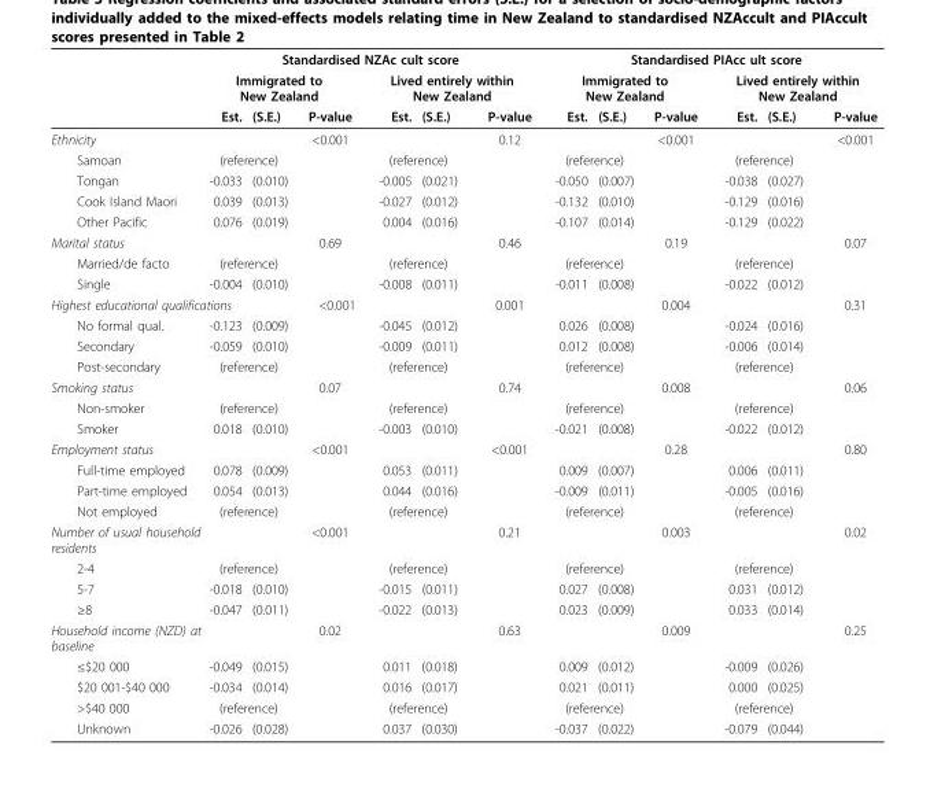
<table><thead><tr><td rowspan="3"></td><td colspan="6">Standardised NZAc cult score</td><td colspan="6">Standardised PIAcc ult score</td></tr><tr><td colspan="3">Immigrated to New Zealand</td><td colspan="3">Lived entirely within New Zealand</td><td colspan="3">Immigrated to New Zealand</td><td colspan="3">Lived entirely within New Zealand</td></tr><tr><td>Est.</td><td>(S.E.)</td><td>P-value</td><td>Est.</td><td>(S.E.)</td><td>P-value</td><td>Est.</td><td>(S.E.)</td><td>P-value</td><td>Est.</td><td>(S.E.)</td><td>P-value</td></tr></thead><tbody><tr><td>Ethnicity</td><td></td><td></td><td>&lt;0.001</td><td></td><td></td><td>0.12</td><td></td><td></td><td>&lt;0.001</td><td></td><td></td><td>&lt;0.001</td></tr><tr><td>Samoan</td><td colspan="2">(reference)</td><td></td><td colspan="2">(reference)</td><td></td><td colspan="2">(reference)</td><td></td><td colspan="2">(reference)</td><td></td></tr><tr><td>Tongan</td><td>-0.033</td><td>(0.010)</td><td></td><td>-0.005</td><td>(0.021)</td><td></td><td>-0.050</td><td>(0.007)</td><td></td><td>-0.038</td><td>(0.027)</td><td></td></tr><tr><td>Cook Island Maori</td><td>0.039</td><td>(0.013)</td><td></td><td>-0.027</td><td>(0.012)</td><td></td><td>-0.132</td><td>(0.010)</td><td></td><td>-0.129</td><td>(0.016)</td><td></td></tr><tr><td>Other Pacific</td><td>0.076</td><td>(0.019)</td><td></td><td>0.004</td><td>(0.016)</td><td></td><td>-0.107</td><td>(0.014)</td><td></td><td>-0.129</td><td>(0.022)</td><td></td></tr><tr><td>Marital status</td><td></td><td></td><td>0.69</td><td></td><td></td><td>0.46</td><td></td><td></td><td>0.19</td><td></td><td></td><td>0.07</td></tr><tr><td>Married/de facto</td><td colspan="2">(reference)</td><td></td><td colspan="2">(reference)</td><td></td><td colspan="2">(reference)</td><td></td><td colspan="2">(reference)</td><td></td></tr><tr><td>Single</td><td>-0.004</td><td>(0.010)</td><td></td><td>-0.008</td><td>(0.011)</td><td></td><td>-0.011</td><td>(0.008)</td><td></td><td>-0.022</td><td>(0.012)</td><td></td></tr><tr><td colspan="2">Highest educational qualifications</td><td></td><td>&lt;0.001</td><td></td><td></td><td>0.001</td><td></td><td></td><td>0.004</td><td></td><td></td><td>0.31</td></tr><tr><td>No formal qual.</td><td>-0.123</td><td>(0.009)</td><td></td><td>-0.045</td><td>(0.012)</td><td></td><td>0.026</td><td>(0.008)</td><td></td><td>-0.024</td><td>(0.016)</td><td></td></tr><tr><td>Secondary</td><td>-0.059</td><td>(0.010)</td><td></td><td>-0.009</td><td>(0.011)</td><td></td><td>0.012</td><td>(0.008)</td><td></td><td>-0.006</td><td>(0.014)</td><td></td></tr><tr><td>Post-secondary</td><td colspan="2">(reference)</td><td></td><td colspan="2">(reference)</td><td></td><td colspan="2">(reference)</td><td></td><td colspan="2">(reference)</td><td></td></tr><tr><td>Smoking status</td><td></td><td></td><td>0.07</td><td></td><td></td><td>0.74</td><td></td><td></td><td>0.008</td><td></td><td></td><td>0.06</td></tr><tr><td>Non-smoker</td><td colspan="2">(reference)</td><td></td><td colspan="2">(reference)</td><td></td><td colspan="2">(reference)</td><td></td><td colspan="2">(reference)</td><td></td></tr><tr><td>Smoker</td><td>0.018</td><td>(0.010)</td><td></td><td>-0.003</td><td>(0.010)</td><td></td><td>-0.021</td><td>(0.008)</td><td></td><td>-0.022</td><td>(0.012)</td><td></td></tr><tr><td>Employment status</td><td></td><td></td><td>&lt;0.001</td><td></td><td></td><td>&lt;0.001</td><td></td><td></td><td>0.28</td><td></td><td></td><td>0.80</td></tr><tr><td>Full-time employed</td><td>0.078</td><td>(0.009)</td><td></td><td>0.053</td><td>(0.011)</td><td></td><td>0.009</td><td>(0.007)</td><td></td><td>0.006</td><td>(0.011)</td><td></td></tr><tr><td>Part-time employed</td><td>0.054</td><td>(0.013)</td><td></td><td>0.044</td><td>(0.016)</td><td></td><td>-0.009</td><td>(0.011)</td><td></td><td>-0.005</td><td>(0.016)</td><td></td></tr><tr><td>Not employed</td><td colspan="2">(reference)</td><td></td><td colspan="2">(reference)</td><td></td><td colspan="2">(reference)</td><td></td><td colspan="2">(reference)</td><td></td></tr><tr><td colspan="2">Number of usual household residents</td><td></td><td>&lt;0.001</td><td></td><td></td><td>0.21</td><td></td><td></td><td>0.003</td><td></td><td></td><td>0.02</td></tr><tr><td>2-4</td><td colspan="2">(reference)</td><td></td><td colspan="2">(reference)</td><td></td><td colspan="2">(reference)</td><td></td><td colspan="2">(reference)</td><td></td></tr><tr><td>5-7</td><td>-0.018</td><td>(0.010)</td><td></td><td>-0.015</td><td>(0.011)</td><td></td><td>0.027</td><td>(0.008)</td><td></td><td>0.031</td><td>(0.012)</td><td></td></tr><tr><td>≥8</td><td>-0.047</td><td>(0.011)</td><td></td><td>-0.022</td><td>(0.013)</td><td></td><td>0.023</td><td>(0.009)</td><td></td><td>0.033</td><td>(0.014)</td><td></td></tr><tr><td colspan="2">Household income (NZD) at baseline</td><td></td><td>0.02</td><td></td><td></td><td>0.63</td><td></td><td></td><td>0.009</td><td></td><td></td><td>0.25</td></tr><tr><td>≤$20 000</td><td>-0.049</td><td>(0.015)</td><td></td><td>0.011</td><td>(0.018)</td><td></td><td>0.009</td><td>(0.012)</td><td></td><td>-0.009</td><td>(0.026)</td><td></td></tr><tr><td>$20 001-$40 000</td><td>-0.034</td><td>(0.014)</td><td></td><td>0.016</td><td>(0.017)</td><td></td><td>0.021</td><td>(0.011)</td><td></td><td>0.000</td><td>(0.025)</td><td></td></tr><tr><td>&gt;$40 000</td><td colspan="2">(reference)</td><td></td><td colspan="2">(reference)</td><td></td><td colspan="2">(reference)</td><td></td><td colspan="2">(reference)</td><td></td></tr><tr><td>Unknown</td><td>-0.026</td><td>(0.028)</td><td></td><td>0.037</td><td>(0.030)</td><td></td><td>-0.037</td><td>(0.022)</td><td></td><td>-0.079</td><td>(0.044)</td><td></td></tr></tbody></table>